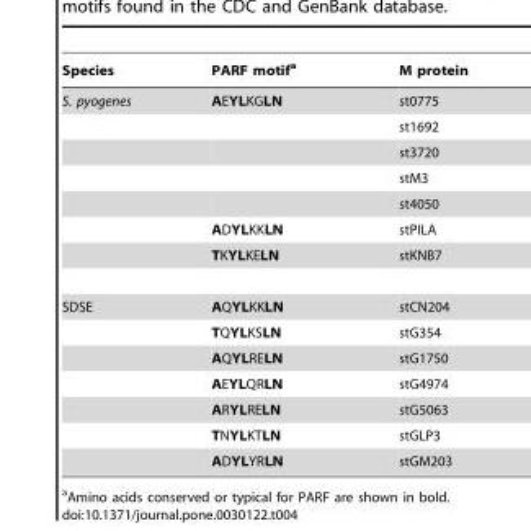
<table><thead><tr><td>Species</td><td>PARF motif<sup>a</sup></td><td>M protein</td></tr></thead><tbody><tr><td rowspan="7">S. pyogenes</td><td>AEYLKGLN</td><td>st0775</td></tr><tr><td></td><td>st1692</td></tr><tr><td></td><td>st3720</td></tr><tr><td></td><td>stM3</td></tr><tr><td></td><td>st4050</td></tr><tr><td>ADYLKKLN</td><td>stPILA</td></tr><tr><td>TKYLKELN</td><td>stKNB7</td></tr><tr><td rowspan="7">SDSE</td><td>AQYLKKLN</td><td>stCN204</td></tr><tr><td>TQYLKSLN</td><td>stG354</td></tr><tr><td>AQYLRELN</td><td>stG1750</td></tr><tr><td>AEYLQRLN</td><td>stG4974</td></tr><tr><td>ARYLRELN</td><td>stG5063</td></tr><tr><td>TNYLKTLN</td><td>stGLP3</td></tr><tr><td>ADYLYRLN</td><td>stGM203</td></tr></tbody></table>